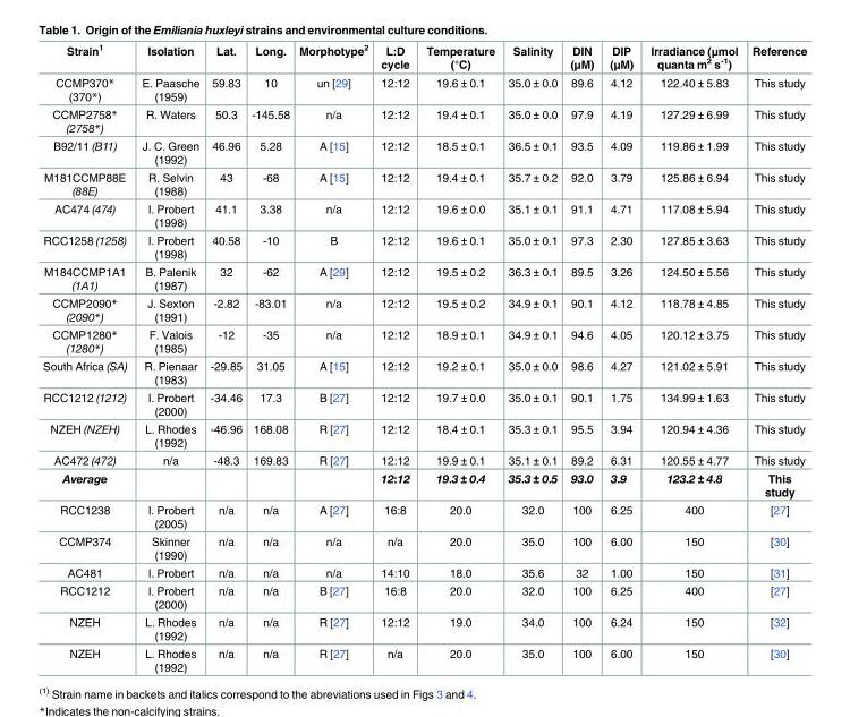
<table><thead><tr><td>Strain<sup>1</sup></td><td>Isolation</td><td>Lat.</td><td>Long.</td><td>Morphotype<sup>2</sup></td><td>L:D cycle</td><td>Temperature (°C)</td><td>Salinity</td><td>DIN (μM)</td><td>DIP (μM)</td><td>Irradiance (μmol quanta m<sup>2</sup> s<sup>-1</sup>)</td><td>Reference</td></tr></thead><tbody><tr><td>CCMP370* (370*)</td><td>E. Paasche (1959)</td><td>59.83</td><td>10</td><td>un [29]</td><td>12:12</td><td>19.6 ± 0.1</td><td>35.0 ± 0.0</td><td>89.6</td><td>4.12</td><td>122.40 ± 5.83</td><td>This study</td></tr><tr><td>CCMP2758* (2758*)</td><td>R. Waters</td><td>50.3</td><td>-145.58</td><td>n/a</td><td>12:12</td><td>19.4 ± 0.1</td><td>35.0 ± 0.0</td><td>97.9</td><td>4.19</td><td>127.29 ± 6.99</td><td>This study</td></tr><tr><td>B92/11 (B11)</td><td>J. C. Green (1992)</td><td>46.96</td><td>5.28</td><td>A [15]</td><td>12:12</td><td>18.5 ± 0.1</td><td>36.5 ± 0.1</td><td>93.5</td><td>4.09</td><td>119.86 ± 1.99</td><td>This study</td></tr><tr><td>M181CCMP88E (88E)</td><td>R. Selvin (1988)</td><td>43</td><td>-68</td><td>A [15]</td><td>12:12</td><td>19.4 ± 0.1</td><td>35.7 ± 0.2</td><td>92.0</td><td>3.79</td><td>125.86 ± 6.94</td><td>This study</td></tr><tr><td>AC474 (474)</td><td>I. Probert (1998)</td><td>41.1</td><td>3.38</td><td>n/a</td><td>12:12</td><td>19.6 ± 0.0</td><td>35.1 ± 0.1</td><td>91.1</td><td>4.71</td><td>117.08 ± 5.94</td><td>This study</td></tr><tr><td>RCC1258 (1258)</td><td>I. Probert (1998)</td><td>40.58</td><td>-10</td><td>B</td><td>12:12</td><td>19.6 ± 0.1</td><td>35.0 ± 0.1</td><td>97.3</td><td>2.30</td><td>127.85 ± 3.63</td><td>This study</td></tr><tr><td>M184CCMP1A1 (1A1)</td><td>B. Palenik (1987)</td><td>32</td><td>-62</td><td>A [29]</td><td>12:12</td><td>19.5 ± 0.2</td><td>36.3 ± 0.1</td><td>89.5</td><td>3.26</td><td>124.50 ± 5.56</td><td>This study</td></tr><tr><td>CCMP2090* (2090*)</td><td>J. Sexton (1991)</td><td>-2.82</td><td>-83.01</td><td>n/a</td><td>12:12</td><td>19.5 ± 0.2</td><td>34.9 ± 0.1</td><td>90.1</td><td>4.12</td><td>118.78 ± 4.85</td><td>This study</td></tr><tr><td>CCMP1280* (1280*)</td><td>F. Valois (1985)</td><td>-12</td><td>-35</td><td>n/a</td><td>12:12</td><td>18.9 ± 0.1</td><td>34.9 ± 0.1</td><td>94.6</td><td>4.05</td><td>120.12 ± 3.75</td><td>This study</td></tr><tr><td>South Africa (SA)</td><td>R. Pienaar (1983)</td><td>-29.85</td><td>31.05</td><td>A [15]</td><td>12:12</td><td>19.2 ± 0.1</td><td>35.0 ± 0.0</td><td>98.6</td><td>4.27</td><td>121.02 ± 5.91</td><td>This study</td></tr><tr><td>RCC1212 (1212)</td><td>I. Probert (2000)</td><td>-34.46</td><td>17.3</td><td>B [27]</td><td>12:12</td><td>19.7 ± 0.0</td><td>35.0 ± 0.1</td><td>90.1</td><td>1.75</td><td>134.99 ± 1.63</td><td>This study</td></tr><tr><td>NZEH (NZEH)</td><td>L. Rhodes (1992)</td><td>-46.96</td><td>168.08</td><td>R [27]</td><td>12:12</td><td>18.4 ± 0.1</td><td>35.3 ± 0.1</td><td>95.5</td><td>3.94</td><td>120.94 ± 4.36</td><td>This study</td></tr><tr><td>AC472 (472)</td><td>n/a</td><td>-48.3</td><td>169.83</td><td>R [27]</td><td>12:12</td><td>19.9 ± 0.1</td><td>35.1 ± 0.1</td><td>89.2</td><td>6.31</td><td>120.55 ± 4.77</td><td>This study</td></tr><tr><td>Average</td><td></td><td></td><td></td><td></td><td>12:12</td><td>19.3 ± 0.4</td><td>35.3 ± 0.5</td><td>93.0</td><td>3.9</td><td>123.2 ± 4.8</td><td>This study</td></tr><tr><td>RCC1238</td><td>I. Probert (2005)</td><td>n/a</td><td>n/a</td><td>A [27]</td><td>16:8</td><td>20.0</td><td>32.0</td><td>100</td><td>6.25</td><td>400</td><td>[27]</td></tr><tr><td>CCMP374</td><td>Skinner (1990)</td><td>n/a</td><td>n/a</td><td>n/a</td><td>n/a</td><td>20.0</td><td>35.0</td><td>100</td><td>6.00</td><td>150</td><td>[30]</td></tr><tr><td>AC481</td><td>I. Probert</td><td>n/a</td><td>n/a</td><td>n/a</td><td>14:10</td><td>18.0</td><td>35.6</td><td>32</td><td>1.00</td><td>150</td><td>[31]</td></tr><tr><td>RCC1212</td><td>I. Probert (2000)</td><td>n/a</td><td>n/a</td><td>B [27]</td><td>16:8</td><td>20.0</td><td>32.0</td><td>100</td><td>6.25</td><td>400</td><td>[27]</td></tr><tr><td>NZEH</td><td>L. Rhodes (1992)</td><td>n/a</td><td>n/a</td><td>R [27]</td><td>12:12</td><td>19.0</td><td>34.0</td><td>100</td><td>6.24</td><td>150</td><td>[32]</td></tr><tr><td>NZEH</td><td>L. Rhodes (1992)</td><td>n/a</td><td>n/a</td><td>R [27]</td><td>n/a</td><td>20.0</td><td>35.0</td><td>100</td><td>6.00</td><td>150</td><td>[30]</td></tr></tbody></table>